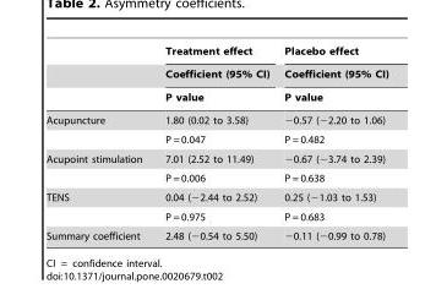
<table><thead><tr><td rowspan="3"></td><td rowspan="3">Treatment effect Coefficient (95% CI) P value</td><td rowspan="3">Placebo effect Coefficient (95% CI) P value</td></tr><tr></tr><tr></tr></thead><tbody><tr><td rowspan="2">Acupuncture</td><td>1.80 (0.02 to 3.58)</td><td>−0.57 (−2.20 to 1.06)</td></tr><tr><td>P = 0.047</td><td>P = 0.482</td></tr><tr><td rowspan="2">Acupoint stimulation</td><td>7.01 (2.52 to 11.49)</td><td>−0.67 (−3.74 to 2.39)</td></tr><tr><td>P = 0.006</td><td>P = 0.638</td></tr><tr><td rowspan="2">TENS</td><td>0.04 (−2.44 to 2.52)</td><td>0.25 (−1.03 to 1.53)</td></tr><tr><td>P = 0.975</td><td>P = 0.683</td></tr><tr><td>Summary coefficient</td><td>2.48 (−0.54 to 5.50)</td><td>−0.11 (−0.99 to 0.78)</td></tr></tbody></table>